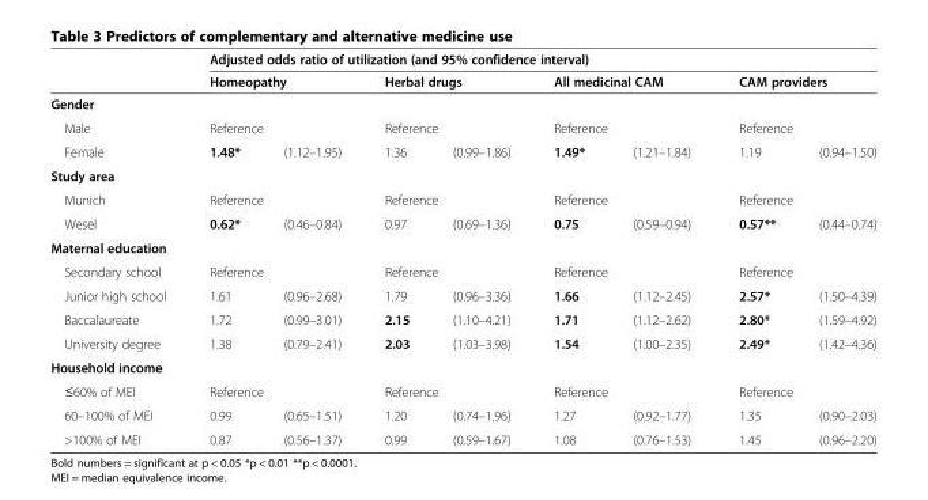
<table><thead><tr><td rowspan="3">Gender</td><td colspan="8">Adjusted odds ratio of utilization (and 95% confidence interval)</td></tr><tr><td colspan="2">Homeopathy</td><td colspan="2">Herbal drugs</td><td colspan="2">All medicinal CAM</td><td colspan="2">CAM providers</td></tr><tr><td></td><td></td><td></td><td></td><td></td><td></td><td></td><td></td></tr></thead><tbody><tr><td>Male</td><td colspan="2">Reference</td><td colspan="2">Reference</td><td colspan="2">Reference</td><td colspan="2">Reference</td></tr><tr><td>Female</td><td>1.48*</td><td>(1.12–1.95)</td><td>1.36</td><td>(0.99–1.86)</td><td>1.49*</td><td>(1.21–1.84)</td><td>1.19</td><td>(0.94–1.50)</td></tr><tr><td colspan="9">Study area</td></tr><tr><td>Munich</td><td colspan="2">Reference</td><td colspan="2">Reference</td><td colspan="2">Reference</td><td colspan="2">Reference</td></tr><tr><td>Wesel</td><td>0.62*</td><td>(0.46–0.84)</td><td>0.97</td><td>(0.69–1.36)</td><td>0.75</td><td>(0.59–0.94)</td><td>0.57**</td><td>(0.44–0.74)</td></tr><tr><td colspan="9">Maternal education</td></tr><tr><td>Secondary school</td><td colspan="2">Reference</td><td colspan="2">Reference</td><td colspan="2">Reference</td><td colspan="2">Reference</td></tr><tr><td>Junior high school</td><td>1.61</td><td>(0.96–2.68)</td><td>1.79</td><td>(0.96–3.36)</td><td>1.66</td><td>(1.12–2.45)</td><td>2.57*</td><td>(1.50–4.39)</td></tr><tr><td>Baccalaureate</td><td>1.72</td><td>(0.99–3.01)</td><td>2.15</td><td>(1.10–4.21)</td><td>1.71</td><td>(1.12–2.62)</td><td>2.80*</td><td>(1.59–4.92)</td></tr><tr><td>University degree</td><td>1.38</td><td>(0.79–2.41)</td><td>2.03</td><td>(1.03–3.98)</td><td>1.54</td><td>(1.00–2.35)</td><td>2.49*</td><td>(1.42–4.36)</td></tr><tr><td colspan="9">Household income</td></tr><tr><td>≤60% of MEI</td><td colspan="2">Reference</td><td colspan="2">Reference</td><td colspan="2">Reference</td><td colspan="2">Reference</td></tr><tr><td>60–100% of MEI</td><td>0.99</td><td>(0.65–1.51)</td><td>1.20</td><td>(0.74–1.96)</td><td>1.27</td><td>(0.92–1.77)</td><td>1.35</td><td>(0.90–2.03)</td></tr><tr><td>&gt;100% of MEI</td><td>0.87</td><td>(0.56–1.37)</td><td>0.99</td><td>(0.59–1.67)</td><td>1.08</td><td>(0.76–1.53)</td><td>1.45</td><td>(0.96–2.20)</td></tr></tbody></table>